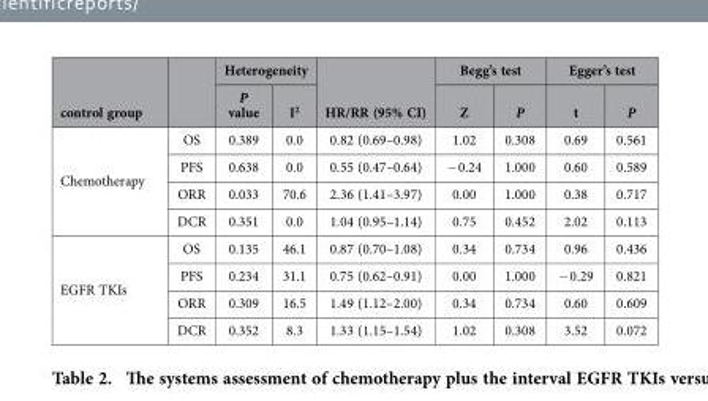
<table><thead><tr><td rowspan="2">control group</td><td rowspan="2"></td><td colspan="2">Heterogeneity</td><td rowspan="2">HR/RR (95% CI)</td><td colspan="2">Begg’s test</td><td colspan="2">Egger’s test</td></tr><tr><td>P value</td><td>I<sup>2</sup></td><td>Z</td><td>P</td><td>t</td><td>P</td></tr></thead><tbody><tr><td rowspan="4">Chemotherapy</td><td>OS</td><td>0.389</td><td>0.0</td><td>0.82 (0.69–0.98)</td><td>1.02</td><td>0.308</td><td>0.69</td><td>0.561</td></tr><tr><td>PFS</td><td>0.638</td><td>0.0</td><td>0.55 (0.47–0.64)</td><td>− 0.24</td><td>1.000</td><td>0.60</td><td>0.589</td></tr><tr><td>ORR</td><td>0.033</td><td>70.6</td><td>2.36 (1.41–3.97)</td><td>0.00</td><td>1.000</td><td>0.38</td><td>0.717</td></tr><tr><td>DCR</td><td>0.351</td><td>0.0</td><td>1.04 (0.95–1.14)</td><td>0.75</td><td>0.452</td><td>2.02</td><td>0.113</td></tr><tr><td rowspan="4">EGFR TKIs</td><td>OS</td><td>0.135</td><td>46.1</td><td>0.87 (0.70–1.08)</td><td>0.34</td><td>0.734</td><td>0.96</td><td>0.436</td></tr><tr><td>PFS</td><td>0.234</td><td>31.1</td><td>0.75 (0.62–0.91)</td><td>0.00</td><td>1.000</td><td>− 0.29</td><td>0.821</td></tr><tr><td>ORR</td><td>0.309</td><td>16.5</td><td>1.49 (1.12–2.00)</td><td>0.34</td><td>0.734</td><td>0.60</td><td>0.609</td></tr><tr><td>DCR</td><td>0.352</td><td>8.3</td><td>1.33 (1.15–1.54)</td><td>1.02</td><td>0.308</td><td>3.52</td><td>0.072</td></tr></tbody></table>